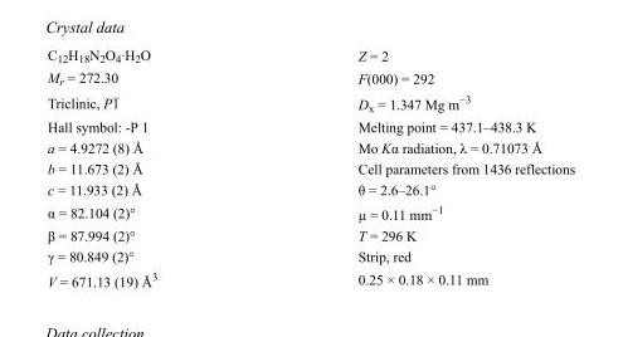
<table><tbody><tr><td>C<sub>12</sub>H<sub>18</sub>N<sub>2</sub>O<sub>4</sub>·H<sub>2</sub>O</td><td>Z = 2</td></tr><tr><td>M<sub>r</sub> = 272.30</td><td>F(000) = 292</td></tr><tr><td>Triclinic, P1</td><td>D<sub>x</sub> = 1.347 Mg m<sup>−3</sup></td></tr><tr><td>Hall symbol: -P 1</td><td>Melting point = 437.1–438.3 K</td></tr><tr><td>a = 4.9272 (8) Å</td><td>Mo Kα radiation, λ = 0.71073 Å</td></tr><tr><td>b = 11.673 (2) Å</td><td>Cell parameters from 1436 reflections</td></tr><tr><td>c = 11.933 (2) Å</td><td>θ = 2.6–26.1°</td></tr><tr><td>α = 82.104 (2)°</td><td>µ = 0.11 mm<sup>−1</sup></td></tr><tr><td>β = 87.994 (2)°</td><td>T = 296 K</td></tr><tr><td>γ = 80.849 (2)°</td><td>Strip, red</td></tr><tr><td>V = 671.13 (19) Å<sup>3</sup></td><td>0.25 × 0.18 × 0.11 mm</td></tr></tbody></table>